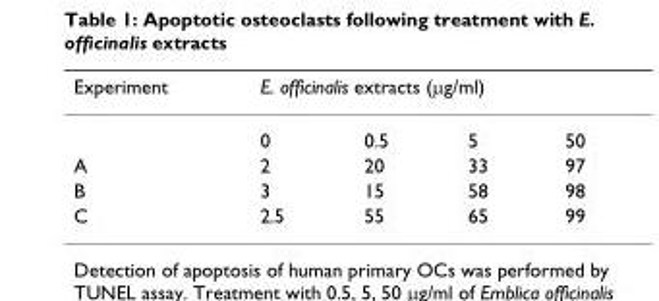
<table><thead><tr><td rowspan="2">Experiment</td><td colspan="4">E. officinalis extracts (μg/ml)</td></tr><tr><td>0</td><td>0.5</td><td>5</td><td>50</td></tr></thead><tbody><tr><td>A</td><td>2</td><td>20</td><td>33</td><td>97</td></tr><tr><td>B</td><td>3</td><td>15</td><td>58</td><td>98</td></tr><tr><td>C</td><td>2.5</td><td>55</td><td>65</td><td>99</td></tr></tbody></table>